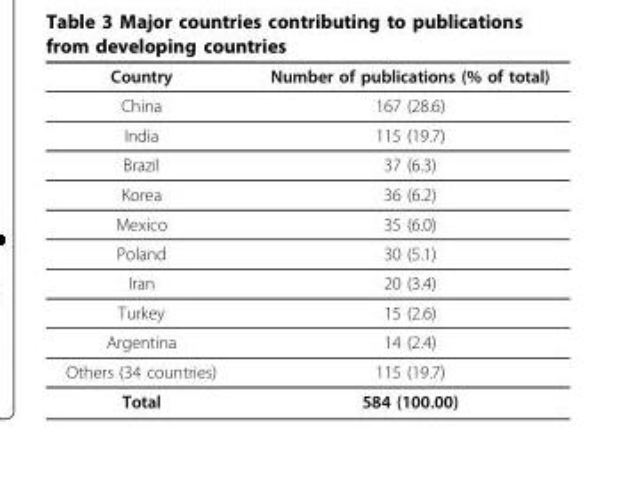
<table><thead><tr><td>Country</td><td>Number of publications (% of total)</td></tr></thead><tbody><tr><td>China</td><td>167 (28.6)</td></tr><tr><td>India</td><td>115 (19.7)</td></tr><tr><td>Brazil</td><td>37 (6.3)</td></tr><tr><td>Korea</td><td>36 (6.2)</td></tr><tr><td>Mexico</td><td>35 (6.0)</td></tr><tr><td>Poland</td><td>30 (5.1)</td></tr><tr><td>Iran</td><td>20 (3.4)</td></tr><tr><td>Turkey</td><td>15 (2.6)</td></tr><tr><td>Argentina</td><td>14 (2.4)</td></tr><tr><td>Others (34 countries)</td><td>115 (19.7)</td></tr><tr><td>Total</td><td>584 (100.00)</td></tr></tbody></table>